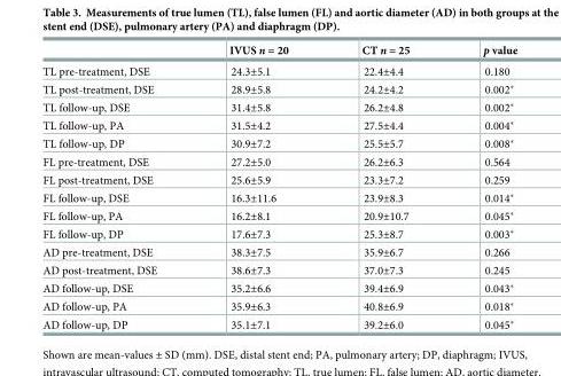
<table><thead><tr><td></td><td>IVUS n = 20</td><td>CT n = 25</td><td>p value</td></tr></thead><tbody><tr><td>TL pre-treatment, DSE</td><td>24.3±5.1</td><td>22.4±4.4</td><td>0.180</td></tr><tr><td>TL post-treatment, DSE</td><td>28.9±5.8</td><td>24.2±4.2</td><td>0.002*</td></tr><tr><td>TL follow-up, DSE</td><td>31.4±5.8</td><td>26.2±4.8</td><td>0.002*</td></tr><tr><td>TL follow-up, PA</td><td>31.5±4.2</td><td>27.5±4.4</td><td>0.004*</td></tr><tr><td>TL follow-up, DP</td><td>30.9±7.2</td><td>25.5±5.7</td><td>0.008*</td></tr><tr><td>FL pre-treatment, DSE</td><td>27.2±5.0</td><td>26.2±6.3</td><td>0.564</td></tr><tr><td>FL post-treatment, DSE</td><td>25.6±5.9</td><td>23.3±7.2</td><td>0.259</td></tr><tr><td>FL follow-up, DSE</td><td>16.3±11.6</td><td>23.9±8.3</td><td>0.014*</td></tr><tr><td>FL follow-up, PA</td><td>16.2±8.1</td><td>20.9±10.7</td><td>0.045*</td></tr><tr><td>FL follow-up, DP</td><td>17.6±7.3</td><td>25.3±8.7</td><td>0.003*</td></tr><tr><td>AD pre-treatment, DSE</td><td>38.3±7.5</td><td>35.9±6.7</td><td>0.266</td></tr><tr><td>AD post-treatment, DSE</td><td>38.6±7.3</td><td>37.0±7.3</td><td>0.245</td></tr><tr><td>AD follow-up, DSE</td><td>35.2±6.6</td><td>39.4±6.9</td><td>0.043*</td></tr><tr><td>AD follow-up, PA</td><td>35.9±6.3</td><td>40.8±6.9</td><td>0.018*</td></tr><tr><td>AD follow-up, DP</td><td>35.1±7.1</td><td>39.2±6.0</td><td>0.045*</td></tr></tbody></table>